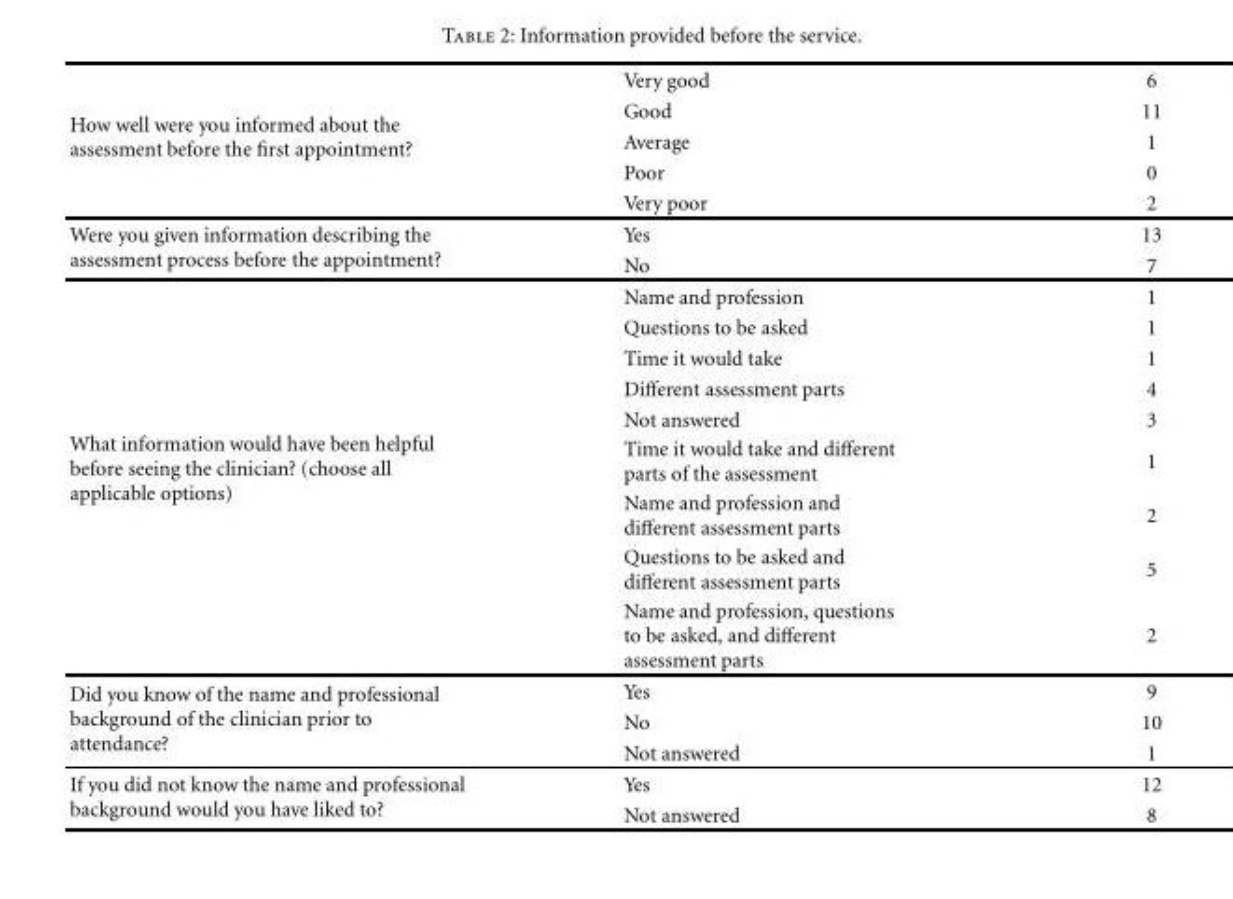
<table><tbody><tr><td rowspan="5">How well were you informed about the assessment before the first appointment?</td><td>Very good</td><td>6</td></tr><tr><td>Good</td><td>11</td></tr><tr><td>Average</td><td>1</td></tr><tr><td>Poor</td><td>0</td></tr><tr><td>Very poor</td><td>2</td></tr><tr><td rowspan="2">Were you given information describing the assessment process before the appointment?</td><td>Yes</td><td>13</td></tr><tr><td>No</td><td>7</td></tr><tr><td rowspan="9">What information would have been helpful before seeing the clinician? (choose all applicable options)</td><td>Name and profession</td><td>1</td></tr><tr><td>Questions to be asked</td><td>1</td></tr><tr><td>Time it would take</td><td>1</td></tr><tr><td>Different assessment parts</td><td>4</td></tr><tr><td>Not answered</td><td>3</td></tr><tr><td>Time it would take and different parts of the assessment</td><td>1</td></tr><tr><td>Name and profession and different assessment parts</td><td>2</td></tr><tr><td>Questions to be asked and different assessment parts</td><td>5</td></tr><tr><td>Name and profession, questions to be asked, and different assessment parts</td><td>2</td></tr><tr><td rowspan="3">Did you know of the name and professional background of the clinician prior to attendance?</td><td>Yes</td><td>9</td></tr><tr><td>No</td><td>10</td></tr><tr><td>Not answered</td><td>1</td></tr><tr><td rowspan="2">If you did not know the name and professional background would you have liked to?</td><td>Yes</td><td>12</td></tr><tr><td>Not answered</td><td>8</td></tr></tbody></table>